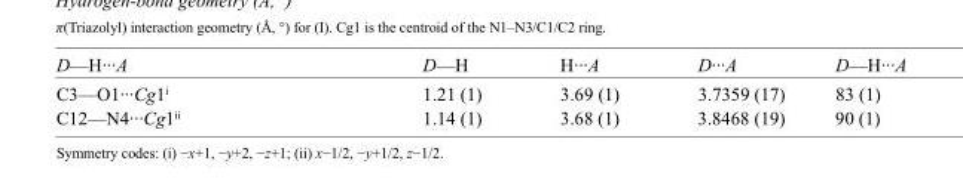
<table><tbody><tr><td>D—H···A</td><td>D—H</td><td>H···A</td><td>D···A</td><td>D—H···A</td></tr><tr><td>C3—O1···Cg1<sup>i</sup></td><td>1.21 (1)</td><td>3.69 (1)</td><td>3.7359 (17)</td><td>83 (1)</td></tr><tr><td>C12—N4···Cg1<sup>ii</sup></td><td>1.14 (1)</td><td>3.68 (1)</td><td>3.8468 (19)</td><td>90 (1)</td></tr></tbody></table>